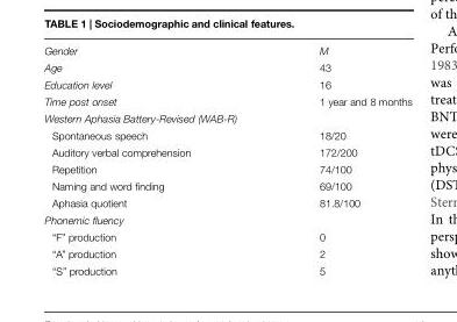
<table><tbody><tr><td>Gender</td><td>M</td></tr><tr><td>Age</td><td>43</td></tr><tr><td>Education level</td><td>16</td></tr><tr><td>Time post onset</td><td>1 year and 8 months</td></tr><tr><td colspan="2">Western Aphasia Battery-Revised (WAB-R)</td></tr><tr><td>Spontaneous speech</td><td>18/20</td></tr><tr><td>Auditory verbal comprehension</td><td>172/200</td></tr><tr><td>Repetition</td><td>74/100</td></tr><tr><td>Naming and word finding</td><td>69/100</td></tr><tr><td>Aphasia quotient</td><td>81.8/100</td></tr><tr><td colspan="2">Phonemic fluency</td></tr><tr><td>“F” production</td><td>0</td></tr><tr><td>“A” production</td><td>2</td></tr><tr><td>“S” production</td><td>5</td></tr></tbody></table>